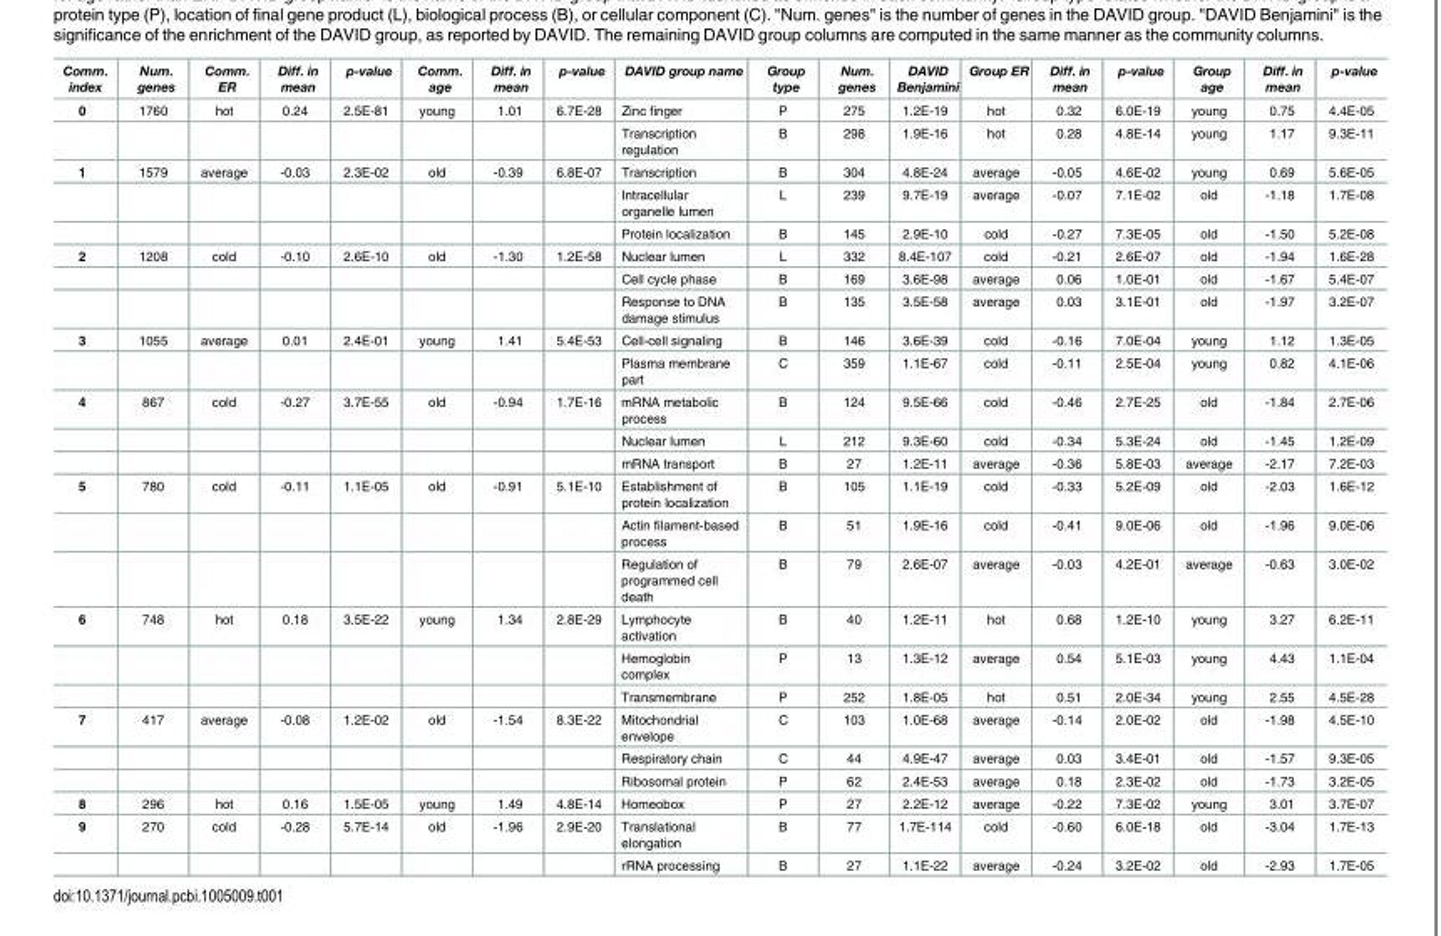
<table><thead><tr><td>Comm. index</td><td>Num. genes</td><td>Comm. ER</td><td>Diff. in mean</td><td>p-value</td><td>Comm. age</td><td>Diff. in mean</td><td>p-value</td><td>DAVID group name</td><td>Group type</td><td>Num. genes</td><td>DAVID Benjamini</td><td>Group ER</td><td>Diff. in mean</td><td>p-value</td><td>Group age</td><td>Diff. in mean</td><td>p-value</td></tr></thead><tbody><tr><td rowspan="2">0</td><td>1760</td><td>hot</td><td>0.24</td><td>2.5E-81</td><td>young</td><td>1.01</td><td>6.7E-28</td><td>Zinc finger</td><td>P</td><td>275</td><td>1.2E-19</td><td>hot</td><td>0.32</td><td>6.0E-19</td><td>young</td><td>0.75</td><td>4.4E-05</td></tr><tr><td></td><td></td><td></td><td></td><td></td><td></td><td></td><td>Transcription regulation</td><td>B</td><td>298</td><td>1.9E-16</td><td>hot</td><td>0.28</td><td>4.8E-14</td><td>young</td><td>1.17</td><td>9.3E-11</td></tr><tr><td rowspan="3">1</td><td>1579</td><td>average</td><td>-0.03</td><td>2.3E-02</td><td>old</td><td>-0.39</td><td>6.8E-07</td><td>Transcription</td><td>B</td><td>304</td><td>4.8E-24</td><td>average</td><td>-0.05</td><td>4.6E-02</td><td>young</td><td>0.69</td><td>5.6E-05</td></tr><tr><td></td><td></td><td></td><td></td><td></td><td></td><td></td><td>Intracellular organelle lumen</td><td>L</td><td>239</td><td>9.7E-19</td><td>average</td><td>-0.07</td><td>7.1E-02</td><td>old</td><td>-1.18</td><td>1.7E-08</td></tr><tr><td></td><td></td><td></td><td></td><td></td><td></td><td></td><td>Protein localization</td><td>B</td><td>145</td><td>2.9E-10</td><td>cold</td><td>-0.27</td><td>7.3E-05</td><td>old</td><td>-1.50</td><td>5.2E-08</td></tr><tr><td rowspan="3">2</td><td>1208</td><td>cold</td><td>-0.10</td><td>2.6E-10</td><td>old</td><td>-1.30</td><td>1.2E-58</td><td>Nuclear lumen</td><td>L</td><td>332</td><td>8.4E-107</td><td>cold</td><td>-0.21</td><td>2.6E-07</td><td>old</td><td>-1.94</td><td>1.6E-28</td></tr><tr><td></td><td></td><td></td><td></td><td></td><td></td><td></td><td>Cell cycle phase</td><td>B</td><td>169</td><td>3.6E-98</td><td>average</td><td>0.06</td><td>1.0E-01</td><td>old</td><td>-1.67</td><td>5.4E-07</td></tr><tr><td></td><td></td><td></td><td></td><td></td><td></td><td></td><td>Response to DNA damage stimulus</td><td>B</td><td>135</td><td>3.5E-58</td><td>average</td><td>0.03</td><td>3.1E-01</td><td>old</td><td>-1.97</td><td>3.2E-07</td></tr><tr><td rowspan="2">3</td><td>1055</td><td>average</td><td>0.01</td><td>2.4E-01</td><td>young</td><td>1.41</td><td>5.4E-53</td><td>Cell-cell signaling</td><td>B</td><td>146</td><td>3.6E-39</td><td>cold</td><td>-0.16</td><td>7.0E-04</td><td>young</td><td>1.12</td><td>1.3E-05</td></tr><tr><td></td><td></td><td></td><td></td><td></td><td></td><td></td><td>Plasma membrane part</td><td>C</td><td>359</td><td>1.1E-67</td><td>cold</td><td>-0.11</td><td>2.5E-04</td><td>young</td><td>0.82</td><td>4.1E-06</td></tr><tr><td rowspan="3">4</td><td>867</td><td>cold</td><td>-0.27</td><td>3.7E-55</td><td>old</td><td>-0.94</td><td>1.7E-16</td><td>mRNA metabolic process</td><td>B</td><td>124</td><td>9.5E-66</td><td>cold</td><td>-0.46</td><td>2.7E-25</td><td>old</td><td>-1.84</td><td>2.7E-06</td></tr><tr><td></td><td></td><td></td><td></td><td></td><td></td><td></td><td>Nuclear lumen</td><td>L</td><td>212</td><td>9.3E-60</td><td>cold</td><td>-0.34</td><td>5.3E-24</td><td>old</td><td>-1.45</td><td>1.2E-09</td></tr><tr><td></td><td></td><td></td><td></td><td></td><td></td><td></td><td>mRNA transport</td><td>B</td><td>27</td><td>1.2E-11</td><td>average</td><td>-0.36</td><td>5.8E-03</td><td>average</td><td>-2.17</td><td>7.2E-03</td></tr><tr><td rowspan="3">5</td><td>780</td><td>cold</td><td>-0.11</td><td>1.1E-05</td><td>old</td><td>-0.91</td><td>5.1E-10</td><td>Establishment of protein localization</td><td>B</td><td>105</td><td>1.1E-19</td><td>cold</td><td>-0.33</td><td>5.2E-09</td><td>old</td><td>-2.03</td><td>1.6E-12</td></tr><tr><td></td><td></td><td></td><td></td><td></td><td></td><td></td><td>Actin filament-based process</td><td>B</td><td>51</td><td>1.9E-16</td><td>cold</td><td>-0.41</td><td>9.0E-06</td><td>old</td><td>-1.96</td><td>9.0E-06</td></tr><tr><td></td><td></td><td></td><td></td><td></td><td></td><td></td><td>Regulation of programmed cell death</td><td>B</td><td>79</td><td>2.6E-07</td><td>average</td><td>-0.03</td><td>4.2E-01</td><td>average</td><td>-0.63</td><td>3.0E-02</td></tr><tr><td rowspan="3">6</td><td>748</td><td>hot</td><td>0.18</td><td>3.5E-22</td><td>young</td><td>1.34</td><td>2.8E-29</td><td>Lymphocyte activation</td><td>B</td><td>40</td><td>1.2E-11</td><td>hot</td><td>0.68</td><td>1.2E-10</td><td>young</td><td>3.27</td><td>6.2E-11</td></tr><tr><td></td><td></td><td></td><td></td><td></td><td></td><td></td><td>Hemoglobin complex</td><td>P</td><td>13</td><td>1.3E-12</td><td>average</td><td>0.54</td><td>5.1E-03</td><td>young</td><td>4.43</td><td>1.1E-04</td></tr><tr><td></td><td></td><td></td><td></td><td></td><td></td><td></td><td>Transmembrane</td><td>P</td><td>252</td><td>1.8E-05</td><td>hot</td><td>0.51</td><td>2.0E-34</td><td>young</td><td>2.55</td><td>4.5E-28</td></tr><tr><td rowspan="3">7</td><td>417</td><td>average</td><td>-0.08</td><td>1.2E-02</td><td>old</td><td>-1.54</td><td>8.3E-22</td><td>Mitochondrial envelope</td><td>C</td><td>103</td><td>1.0E-68</td><td>average</td><td>-0.14</td><td>2.0E-02</td><td>old</td><td>-1.98</td><td>4.5E-10</td></tr><tr><td></td><td></td><td></td><td></td><td></td><td></td><td></td><td>Respiratory chain</td><td>C</td><td>44</td><td>4.9E-47</td><td>average</td><td>0.03</td><td>3.4E-01</td><td>old</td><td>-1.57</td><td>9.3E-05</td></tr><tr><td></td><td></td><td></td><td></td><td></td><td></td><td></td><td>Ribosomal protein</td><td>P</td><td>62</td><td>2.4E-53</td><td>average</td><td>0.18</td><td>2.3E-02</td><td>old</td><td>-1.73</td><td>3.2E-05</td></tr><tr><td>8</td><td>296</td><td>hot</td><td>0.16</td><td>1.5E-05</td><td>young</td><td>1.49</td><td>4.8E-14</td><td>Homeobox</td><td>P</td><td>27</td><td>2.2E-12</td><td>average</td><td>-0.22</td><td>7.3E-02</td><td>young</td><td>3.01</td><td>3.7E-07</td></tr><tr><td rowspan="2">9</td><td>270</td><td>cold</td><td>-0.28</td><td>5.7E-14</td><td>old</td><td>-1.96</td><td>2.9E-20</td><td>Translational elongation</td><td>B</td><td>77</td><td>1.7E-114</td><td>cold</td><td>-0.60</td><td>6.0E-18</td><td>old</td><td>-3.04</td><td>1.7E-13</td></tr><tr><td></td><td></td><td></td><td></td><td></td><td></td><td></td><td>rRNA processing</td><td>B</td><td>27</td><td>1.1E-22</td><td>average</td><td>-0.24</td><td>3.2E-02</td><td>old</td><td>-2.93</td><td>1.7E-05</td></tr></tbody></table>